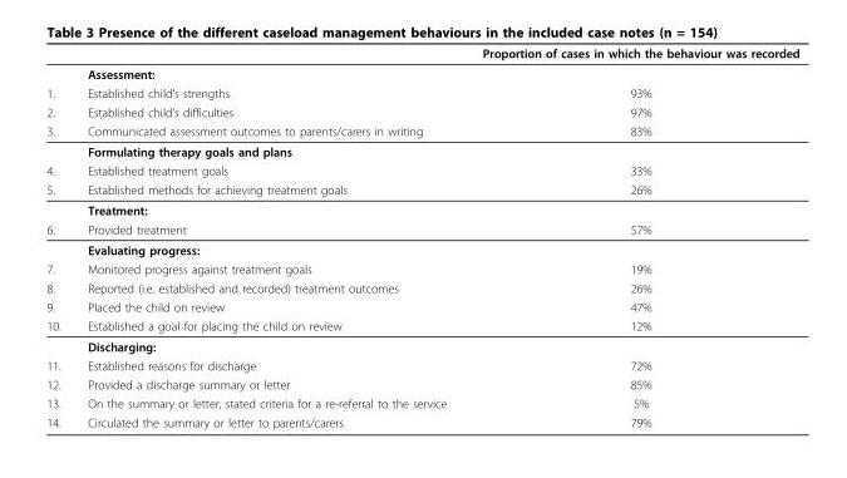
<table><thead><tr><td></td><td></td><td>Proportion of cases in which the behaviour was recorded</td></tr></thead><tbody><tr><td></td><td>Assessment:</td><td></td></tr><tr><td>1.</td><td>Established child’s strengths</td><td>93%</td></tr><tr><td>2.</td><td>Established child’s difficulties</td><td>97%</td></tr><tr><td rowspan="2">3.</td><td>Communicated assessment outcomes to parents/carers in writing</td><td>83%</td></tr><tr><td>Formulating therapy goals and plans</td><td></td></tr><tr><td>4.</td><td>Established treatment goals</td><td>33%</td></tr><tr><td rowspan="2">5.</td><td>Established methods for achieving treatment goals</td><td>26%</td></tr><tr><td>Treatment:</td><td></td></tr><tr><td rowspan="2">6.</td><td>Provided treatment</td><td>57%</td></tr><tr><td>Evaluating progress:</td><td></td></tr><tr><td>7.</td><td>Monitored progress against treatment goals</td><td>19%</td></tr><tr><td>8.</td><td>Reported (i.e. established and recorded) treatment outcomes</td><td>26%</td></tr><tr><td>9.</td><td>Placed the child on review</td><td>47%</td></tr><tr><td rowspan="2">10.</td><td>Established a goal for placing the child on review</td><td>12%</td></tr><tr><td>Discharging:</td><td></td></tr><tr><td>11.</td><td>Established reasons for discharge</td><td>72%</td></tr><tr><td>12.</td><td>Provided a discharge summary or letter</td><td>85%</td></tr><tr><td>13.</td><td>On the summary or letter, stated criteria for a re-referral to the service</td><td>5%</td></tr><tr><td>14.</td><td>Circulated the summary or letter to parents/carers</td><td>79%</td></tr></tbody></table>